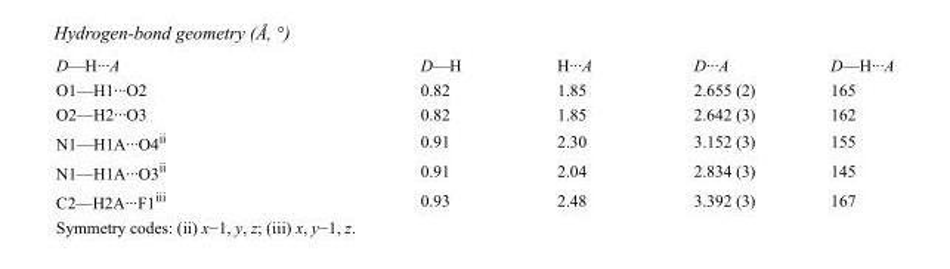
<table><tbody><tr><td>D—H···A</td><td>D—H</td><td>H···A</td><td>D···A</td><td>D—H···A</td></tr><tr><td>O1—H1···O2</td><td>0.82</td><td>1.85</td><td>2.655 (2)</td><td>165</td></tr><tr><td>O2—H2···O3</td><td>0.82</td><td>1.85</td><td>2.642 (3)</td><td>162</td></tr><tr><td>N1—H1A···O4<sup>ii</sup></td><td>0.91</td><td>2.30</td><td>3.152 (3)</td><td>155</td></tr><tr><td>N1—H1A···O3<sup>ii</sup></td><td>0.91</td><td>2.04</td><td>2.834 (3)</td><td>145</td></tr><tr><td>C2—H2A···F1<sup>iii</sup></td><td>0.93</td><td>2.48</td><td>3.392 (3)</td><td>167</td></tr></tbody></table>